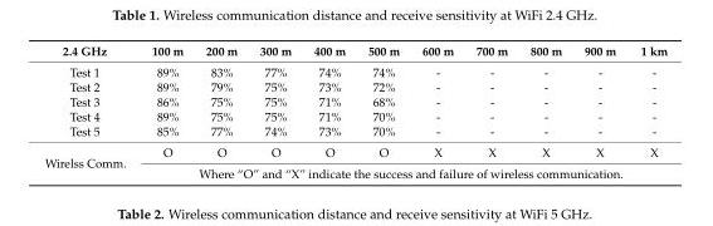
<table><thead><tr><td>2.4 GHz</td><td>100 m</td><td>200 m</td><td>300 m</td><td>400 m</td><td>500 m</td><td>600 m</td><td>700 m</td><td>800 m</td><td>900 m</td><td>1 km</td></tr></thead><tbody><tr><td>Test 1</td><td>89%</td><td>83%</td><td>77%</td><td>74%</td><td>74%</td><td>-</td><td>-</td><td>-</td><td>-</td><td>-</td></tr><tr><td>Test 2</td><td>89%</td><td>79%</td><td>75%</td><td>73%</td><td>72%</td><td>-</td><td>-</td><td>-</td><td>-</td><td>-</td></tr><tr><td>Test 3</td><td>86%</td><td>75%</td><td>75%</td><td>71%</td><td>68%</td><td>-</td><td>-</td><td>-</td><td>-</td><td>-</td></tr><tr><td>Test 4</td><td>89%</td><td>75%</td><td>75%</td><td>71%</td><td>70%</td><td>-</td><td>-</td><td>-</td><td>-</td><td>-</td></tr><tr><td>Test 5</td><td>85%</td><td>77%</td><td>74%</td><td>73%</td><td>70%</td><td>-</td><td>-</td><td>-</td><td>-</td><td>-</td></tr><tr><td rowspan="2">Wirelss Comm.</td><td>O</td><td>O</td><td>O</td><td>O</td><td>O</td><td>X</td><td>X</td><td>X</td><td>X</td><td>X</td></tr><tr><td colspan="10">Where “O” and “X” indicate the success and failure of wireless communication.</td></tr></tbody></table>